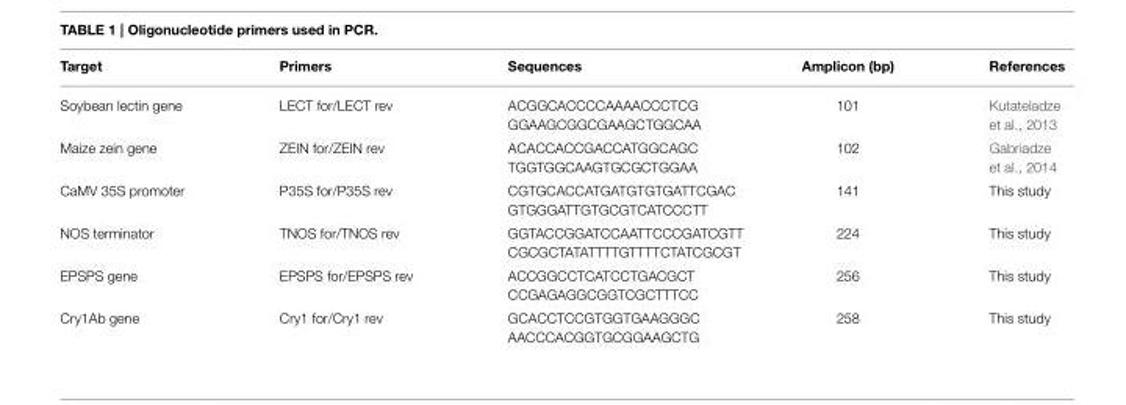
<table><thead><tr><td>Target</td><td>Primers</td><td>Sequences</td><td>Amplicon (bp)</td><td>References</td></tr></thead><tbody><tr><td>Soybean lectin gene</td><td>LECT for/LECT rev</td><td>ACGGCACCCCAAAACCCTCG GGAAGCGGCGAAGCTGGCAA</td><td>101</td><td>Kutateladze et al., 2013</td></tr><tr><td>Maize zein gene</td><td>ZEIN for/ZEIN rev</td><td>ACACCACCGACCATGGCAGC TGGTGGCAAGTGCGCTGGAA</td><td>102</td><td>Gabriadze et al., 2014</td></tr><tr><td>CaMV 35S promoter</td><td>P35S for/P35S rev</td><td>CGTGCACCATGATGTGTGATTCGAC GTGGGATTGTGCGTCATCCCTT</td><td>141</td><td>This study</td></tr><tr><td>NOS terminator</td><td>TNOS for/TNOS rev</td><td>GGTACCGGATCCAATTCCCGATCGTT CGCGCTATATTTTGTTTTCTATCGCGT</td><td>224</td><td>This study</td></tr><tr><td>EPSPS gene</td><td>EPSPS for/EPSPS rev</td><td>ACCGGCCTCATCCTGACGCT CCGAGAGGCGGTCGCTTTCC</td><td>256</td><td>This study</td></tr><tr><td>Cry1Ab gene</td><td>Cry1 for/Cry1 rev</td><td>GCACCTCCGTGGTGAAGGGC AACCCACGGTGCGGAAGCTG</td><td>258</td><td>This study</td></tr></tbody></table>